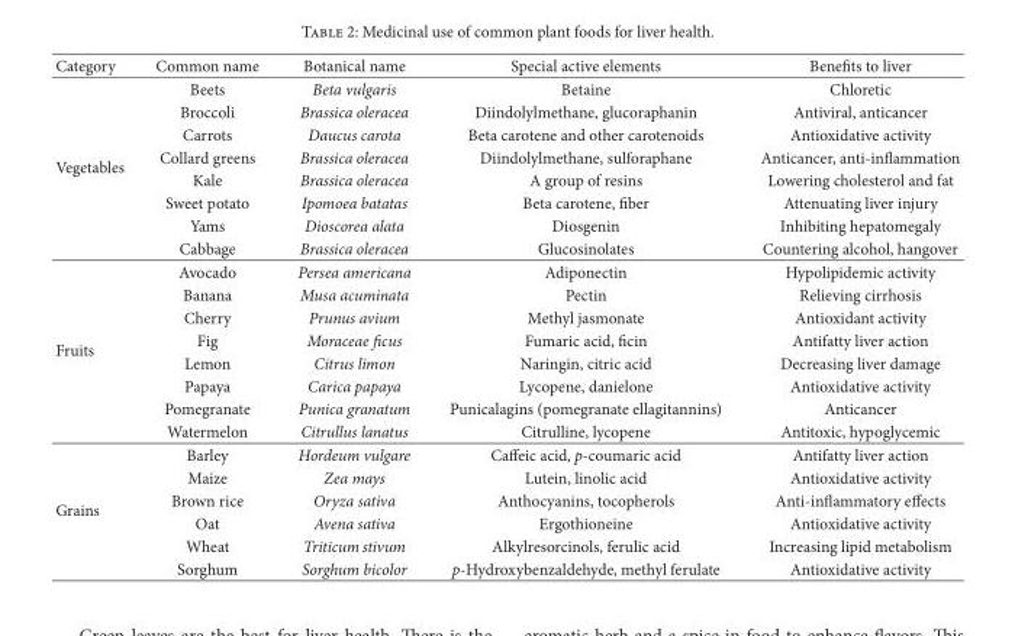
<table><thead><tr><td>Category</td><td>Common name</td><td>Botanical name</td><td>Special active elements</td><td>Benefits to liver</td></tr></thead><tbody><tr><td rowspan="8">Vegetables</td><td>Beets</td><td>Beta vulgaris</td><td>Betaine</td><td>Chloretic</td></tr><tr><td>Broccoli</td><td>Brassica oleracea</td><td>Diindolylmethane, glucoraphanin</td><td>Antiviral, anticancer</td></tr><tr><td>Carrots</td><td>Daucus carota</td><td>Beta carotene and other carotenoids</td><td>Antioxidative activity</td></tr><tr><td>Collard greens</td><td>Brassica oleracea</td><td>Diindolylmethane, sulforaphane</td><td>Anticancer, anti-inflammation</td></tr><tr><td>Kale</td><td>Brassica oleracea</td><td>A group of resins</td><td>Lowering cholesterol and fat</td></tr><tr><td>Sweet potato</td><td>Ipomoea batatas</td><td>Beta carotene, fiber</td><td>Attenuating liver injury</td></tr><tr><td>Yams</td><td>Dioscorea alata</td><td>Diosgenin</td><td>Inhibiting hepatomegaly</td></tr><tr><td>Cabbage</td><td>Brassica oleracea</td><td>Glucosinolates</td><td>Countering alcohol, hangover</td></tr><tr><td rowspan="8">Fruits</td><td>Avocado</td><td>Persea americana</td><td>Adiponectin</td><td>Hypolipidemic activity</td></tr><tr><td>Banana</td><td>Musa acuminata</td><td>Pectin</td><td>Relieving cirrhosis</td></tr><tr><td>Cherry</td><td>Prunus avium</td><td>Methyl jasmonate</td><td>Antioxidant activity</td></tr><tr><td>Fig</td><td>Moraceae ficus</td><td>Fumaric acid, ficin</td><td>Antifatty liver action</td></tr><tr><td>Lemon</td><td>Citrus limon</td><td>Naringin, citric acid</td><td>Decreasing liver damage</td></tr><tr><td>Papaya</td><td>Carica papaya</td><td>Lycopene, danielone</td><td>Antioxidative activity</td></tr><tr><td>Pomegranate</td><td>Punica granatum</td><td>Punicalagins (pomegranate ellagitannins)</td><td>Anticancer</td></tr><tr><td>Watermelon</td><td>Citrullus lanatus</td><td>Citrulline, lycopene</td><td>Antitoxic, hypoglycemic</td></tr><tr><td rowspan="6">Grains</td><td>Barley</td><td>Hordeum vulgare</td><td>Caffeic acid, p-coumaric acid</td><td>Antifatty liver action</td></tr><tr><td>Maize</td><td>Zea mays</td><td>Lutein, linolic acid</td><td>Antioxidative activity</td></tr><tr><td>Brown rice</td><td>Oryza sativa</td><td>Anthocyanins, tocopherols</td><td>Anti-inflammatory effects</td></tr><tr><td>Oat</td><td>Avena sativa</td><td>Ergothioneine</td><td>Antioxidative activity</td></tr><tr><td>Wheat</td><td>Triticum stivum</td><td>Alkylresorcinols, ferulic acid</td><td>Increasing lipid metabolism</td></tr><tr><td>Sorghum</td><td>Sorghum bicolor</td><td>p-Hydroxybenzaldehyde, methyl ferulate</td><td>Antioxidative activity</td></tr></tbody></table>